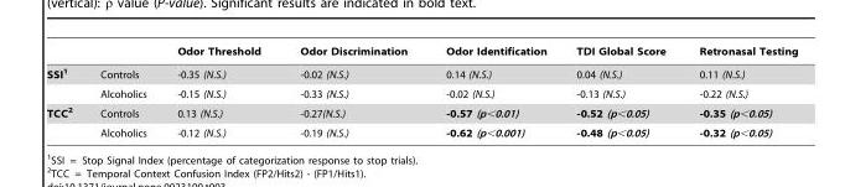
<table><thead><tr><td></td><td></td><td>Odor Threshold</td><td>Odor Discrimination</td><td>Odor Identification</td><td>TDI Global Score</td><td>Retronasal Testing</td></tr></thead><tbody><tr><td rowspan="2">SSI1</td><td>Controls</td><td>-0.35 (N.S.)</td><td>-0.02 (N.S.)</td><td>0.14 (N.S.)</td><td>0.04 (N.S.)</td><td>0.11 (N.S.)</td></tr><tr><td>Alcoholics</td><td>-0.15 (N.S.)</td><td>-0.33 (N.S.)</td><td>-0.02 (N.S.)</td><td>-0.13 (N.S.)</td><td>-0.22 (N.S.)</td></tr><tr><td rowspan="2">TCC2</td><td>Controls</td><td>0.13 (N.S.)</td><td>-0.27(N.S.)</td><td>-0.57 (p&lt;0.01)</td><td>-0.52 (p&lt;0.05)</td><td>-0.35 (p&lt;0.05)</td></tr><tr><td>Alcoholics</td><td>-0.12 (N.S.)</td><td>-0.19 (N.S.)</td><td>-0.62 (p&lt;0.001)</td><td>-0.48 (p&lt;0.05)</td><td>-0.32 (p&lt;0.05)</td></tr></tbody></table>